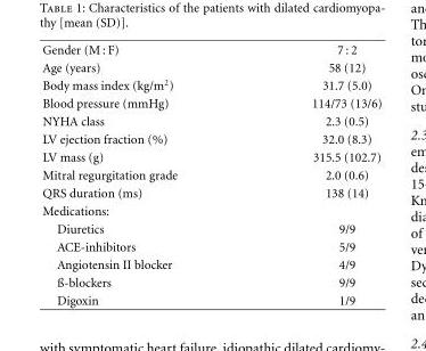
<table><tbody><tr><td>Gender (M : F)</td><td>7 : 2</td></tr><tr><td>Age (years)</td><td>58 (12)</td></tr><tr><td>Body mass index (kg/m<sup>2</sup>)</td><td>31.7 (5.0)</td></tr><tr><td>Blood pressure (mmHg)</td><td>114/73 (13/6)</td></tr><tr><td>NYHA class</td><td>2.3 (0.5)</td></tr><tr><td>LV ejection fraction (%)</td><td>32.0 (8.3)</td></tr><tr><td>LV mass (g)</td><td>315.5 (102.7)</td></tr><tr><td>Mitral regurgitation grade</td><td>2.0 (0.6)</td></tr><tr><td>QRS duration (ms)</td><td>138 (14)</td></tr><tr><td colspan="2">Medications:</td></tr><tr><td>Diuretics</td><td>9/9</td></tr><tr><td>ACE-inhibitors</td><td>5/9</td></tr><tr><td>Angiotensin II blocker</td><td>4/9</td></tr><tr><td>ß-blockers</td><td>9/9</td></tr><tr><td>Digoxin</td><td>1/9</td></tr></tbody></table>